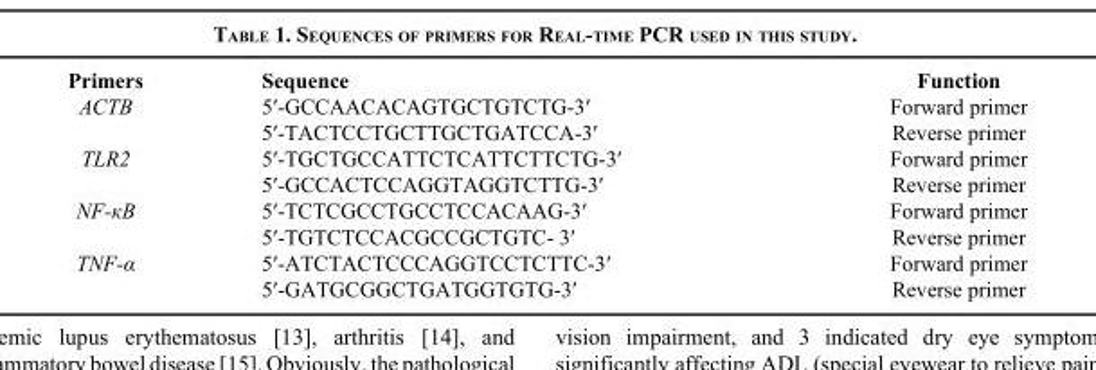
<table><thead><tr><td>Primers</td><td>Sequence</td><td>Function</td></tr></thead><tbody><tr><td rowspan="2">ACTB</td><td>5′-GCCAACACAGTGCTGTCTG-3′</td><td>Forward primer</td></tr><tr><td>5′-TACTCCTGCTTGCTGATCCA-3′</td><td>Reverse primer</td></tr><tr><td rowspan="2">TLR2</td><td>5′-TGCTGCCATTCTCATTCTTCTG-3′</td><td>Forward primer</td></tr><tr><td>5′-GCCACTCCAGGTAGGTCTTG-3′</td><td>Reverse primer</td></tr><tr><td rowspan="2">NF-кB</td><td>5′-TCTCGCCTGCCTCCACAAG-3′</td><td>Forward primer</td></tr><tr><td>5′-TGTCTCCACGCCGCTGTC- 3′</td><td>Reverse primer</td></tr><tr><td rowspan="2">TNF-α</td><td>5′-ATCTACTCCCAGGTCCTCTTC-3′</td><td>Forward primer</td></tr><tr><td>5′-GATGCGGCTGATGGTGTG-3′</td><td>Reverse primer</td></tr></tbody></table>